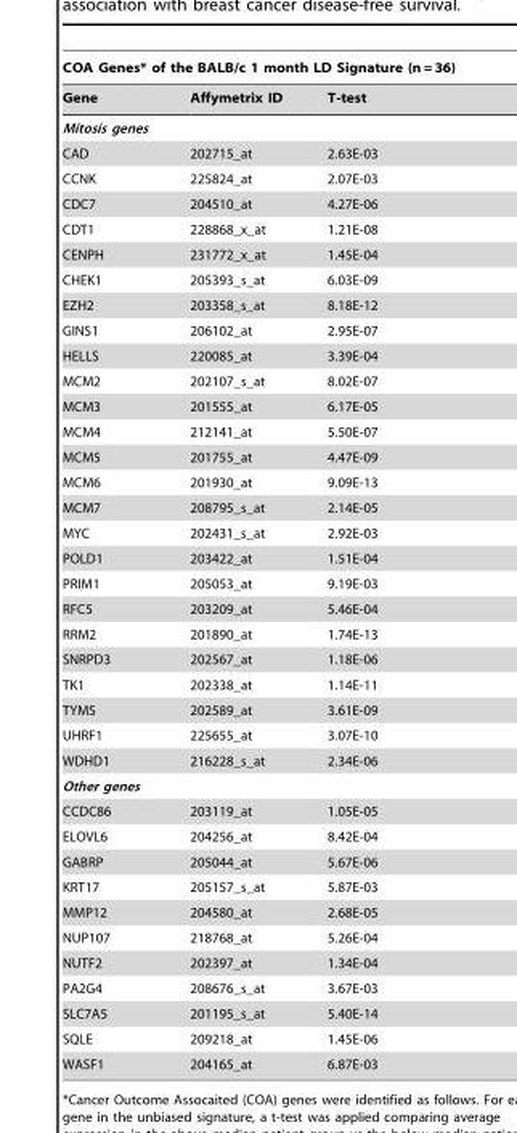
<table><thead><tr><td colspan="3">COA Genes* of the BALB/c 1 month LD Signature (n = 36)</td></tr><tr><td>Gene</td><td>Affymetrix ID</td><td>T-test</td></tr></thead><tbody><tr><td colspan="3">Mitosis genes</td></tr><tr><td>CAD</td><td>202715_at</td><td>2.63E-03</td></tr><tr><td>CCNK</td><td>225824_at</td><td>2.07E-03</td></tr><tr><td>CDC7</td><td>204510_at</td><td>4.27E-06</td></tr><tr><td>CDT1</td><td>228868_x_at</td><td>1.21E-08</td></tr><tr><td>CENPH</td><td>231772_x_at</td><td>1.45E-04</td></tr><tr><td>CHEK1</td><td>205393_s_at</td><td>6.03E-09</td></tr><tr><td>EZH2</td><td>203358_s_at</td><td>8.18E-12</td></tr><tr><td>GINS1</td><td>206102_at</td><td>2.95E-07</td></tr><tr><td>HELLS</td><td>220085_at</td><td>3.39E-04</td></tr><tr><td>MCM2</td><td>202107_s_at</td><td>8.02E-07</td></tr><tr><td>MCM3</td><td>201555_at</td><td>6.17E-05</td></tr><tr><td>MCM4</td><td>212141_at</td><td>5.50E-07</td></tr><tr><td>MCM5</td><td>201755_at</td><td>4.47E-09</td></tr><tr><td>MCM6</td><td>201930_at</td><td>9.09E-13</td></tr><tr><td>MCM7</td><td>208795_s_at</td><td>2.14E-05</td></tr><tr><td>MYC</td><td>202431_s_at</td><td>2.92E-03</td></tr><tr><td>POLD1</td><td>203422_at</td><td>1.51E-04</td></tr><tr><td>PRIM1</td><td>205053_at</td><td>9.19E-03</td></tr><tr><td>RFC5</td><td>203209_at</td><td>5.46E-04</td></tr><tr><td>RRM2</td><td>201890_at</td><td>1.74E-13</td></tr><tr><td>SNRPD3</td><td>202567_at</td><td>1.18E-06</td></tr><tr><td>TK1</td><td>202338_at</td><td>1.14E-11</td></tr><tr><td>TYMS</td><td>202589_at</td><td>3.61E-09</td></tr><tr><td>UHRF1</td><td>225655_at</td><td>3.07E-10</td></tr><tr><td>WDHD1</td><td>216228_s_at</td><td>2.34E-06</td></tr><tr><td colspan="3">Other genes</td></tr><tr><td>CCDC86</td><td>203119_at</td><td>1.05E-05</td></tr><tr><td>ELOVL6</td><td>204256_at</td><td>8.42E-04</td></tr><tr><td>GABRP</td><td>205044_at</td><td>5.67E-06</td></tr><tr><td>KRT17</td><td>205157_s_at</td><td>5.87E-03</td></tr><tr><td>MMP12</td><td>204580_at</td><td>2.68E-05</td></tr><tr><td>NUP107</td><td>218768_at</td><td>5.26E-04</td></tr><tr><td>NUTF2</td><td>202397_at</td><td>1.34E-04</td></tr><tr><td>PA2G4</td><td>208676_s_at</td><td>3.67E-03</td></tr><tr><td>SLC7A5</td><td>201195_s_at</td><td>5.40E-14</td></tr><tr><td>SQLE</td><td>209218_at</td><td>1.45E-06</td></tr><tr><td>WASF1</td><td>204165_at</td><td>6.87E-03</td></tr></tbody></table>